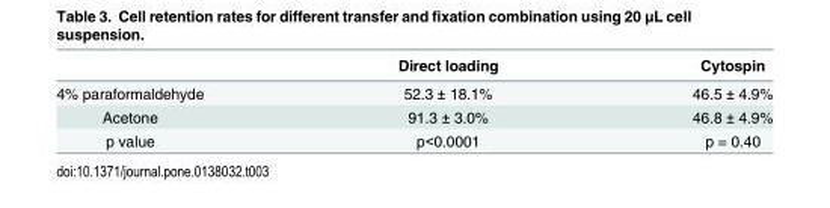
<table><thead><tr><td></td><td>Direct loading</td><td>Cytospin</td></tr></thead><tbody><tr><td>4% paraformaldehyde</td><td>52.3 ± 18.1%</td><td>46.5 ± 4.9%</td></tr><tr><td>Acetone</td><td>91.3 ± 3.0%</td><td>46.8 ± 4.9%</td></tr><tr><td>p value</td><td>p&lt;0.0001</td><td>p = 0.40</td></tr></tbody></table>